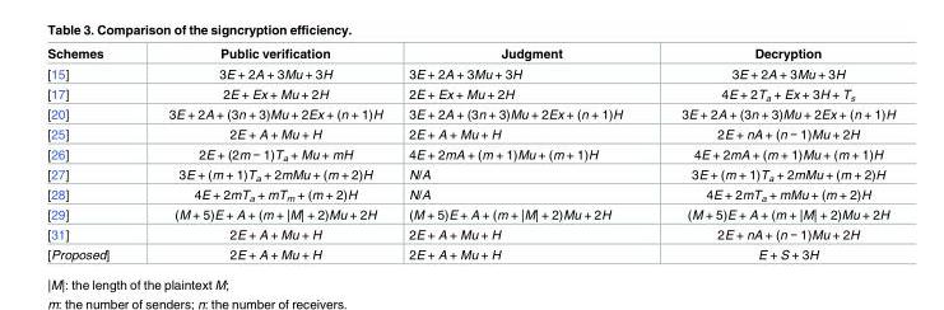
<table><thead><tr><td>Schemes</td><td>Public verification</td><td>Judgment</td><td>Decryption</td></tr></thead><tbody><tr><td>[15]</td><td>3E + 2A + 3Mu + 3H</td><td>3E + 2A + 3Mu + 3H</td><td>3E + 2A + 3Mu + 3H</td></tr><tr><td>[17]</td><td>2E + Ex + Mu + 2H</td><td>2E + Ex + Mu + 2H</td><td>4E + 2T<sub>a</sub> + Ex + 3H + T<sub>s</sub></td></tr><tr><td>[20]</td><td>3E + 2A + (3n + 3)Mu + 2Ex + (n + 1)H</td><td>3E + 2A + (3n + 3)Mu + 2Ex + (n + 1)H</td><td>3E + 2A + (3n + 3)Mu + 2Ex + (n + 1)H</td></tr><tr><td>[25]</td><td>2E + A + Mu + H</td><td>2E + A + Mu + H</td><td>2E + nA + (n − 1)Mu + 2H</td></tr><tr><td>[26]</td><td>2E + (2m − 1)T<sub>a</sub> + Mu + mH</td><td>4E + 2mA + (m + 1)Mu + (m + 1)H</td><td>4E + 2mA + (m + 1)Mu + (m + 1)H</td></tr><tr><td>[27]</td><td>3E + (m + 1)T<sub>a</sub> + 2mMu + (m + 2)H</td><td>N/A</td><td>3E + (m + 1)T<sub>a</sub> + 2mMu + (m + 2)H</td></tr><tr><td>[28]</td><td>4E + 2mT<sub>a</sub> + mT<sub>m</sub> + (m + 2)H</td><td>N/A</td><td>4E + 2mT<sub>a</sub> + mMu + (m + 2)H</td></tr><tr><td>[29]</td><td>(M + 5)E + A + (m + |M| + 2)Mu + 2H</td><td>(M + 5)E + A + (m + |M| + 2)Mu + 2H</td><td>(M + 5)E + A + (m + |M| + 2)Mu + 2H</td></tr><tr><td>[31]</td><td>2E + A + Mu + H</td><td>2E + A + Mu + H</td><td>2E + nA + (n − 1)Mu + 2H</td></tr><tr><td>[Proposed]</td><td>2E + A + Mu + H</td><td>2E + A + Mu + H</td><td>E + S + 3H</td></tr></tbody></table>